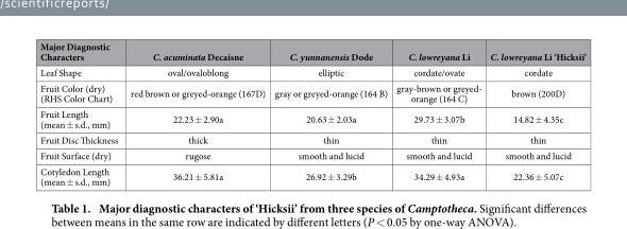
<table><thead><tr><td>Major Diagnostic Characters</td><td>C. acuminata Decaisne</td><td>C. yunnanensis Dode</td><td>C. lowreyana Li</td><td>C. lowreyana Li ‘Hicksii’</td></tr></thead><tbody><tr><td>Leaf Shape</td><td>oval/ovaloblong</td><td>elliptic</td><td>cordate/ovate</td><td>cordate</td></tr><tr><td>Fruit Color (dry) (RHS Color Chart)</td><td>red brown or greyed-orange (167D)</td><td>gray or greyed-orange (164 B)</td><td>gray-brown or greyed- orange (164 C)</td><td>brown (200D)</td></tr><tr><td>Fruit Length (mean ± s.d., mm)</td><td>22.23 ± 2.90a</td><td>20.63 ± 2.03a</td><td>29.73 ± 3.07b</td><td>14.82 ± 4.35c</td></tr><tr><td>Fruit Disc Thickness</td><td>thick</td><td>thin</td><td>thin</td><td>thin</td></tr><tr><td>Fruit Surface (dry)</td><td>rugose</td><td>smooth and lucid</td><td>smooth and lucid</td><td>smooth and lucid</td></tr><tr><td>Cotyledon Length (mean ± s.d., mm)</td><td>36.21 ± 5.81a</td><td>26.92 ± 3.29b</td><td>34.29 ± 4.93a</td><td>22.36 ± 5.07c</td></tr></tbody></table>